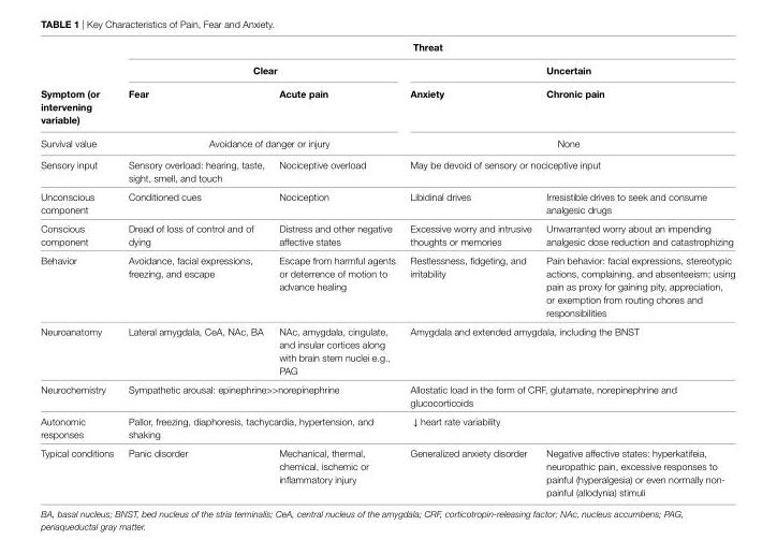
<table><thead><tr><td rowspan="3">Symptom (or intervening variable)</td><td colspan="4">Threat</td></tr><tr><td colspan="2">Clear</td><td colspan="2">Uncertain</td></tr><tr><td>Fear</td><td>Acute pain</td><td>Anxiety</td><td>Chronic pain</td></tr></thead><tbody><tr><td>Survival value</td><td colspan="2">Avoidance of danger or injury</td><td colspan="2">None</td></tr><tr><td>Sensory input</td><td>Sensory overload: hearing, taste, sight, smell, and touch</td><td>Nociceptive overload</td><td colspan="2">May be devoid of sensory or nociceptive input</td></tr><tr><td>Unconscious component</td><td>Conditioned cues</td><td>Nociception</td><td>Libidinal drives</td><td>Irresistible drives to seek and consume analgesic drugs</td></tr><tr><td>Conscious component</td><td>Dread of loss of control and of dying</td><td>Distress and other negative affective states</td><td>Excessive worry and intrusive thoughts or memories</td><td>Unwarranted worry about an impending analgesic dose reduction and catastrophizing</td></tr><tr><td>Behavior</td><td>Avoidance, facial expressions, freezing, and escape</td><td>Escape from harmful agents or deterrence of motion to advance healing</td><td>Restlessness, fidgeting, and irritability</td><td>Pain behavior: facial expressions, stereotypic actions, complaining, and absenteeism; using pain as proxy for gaining pity, appreciation, or exemption from routing chores and responsibilities</td></tr><tr><td>Neuroanatomy</td><td>Lateral amygdala, CeA, NAc, BA</td><td>NAc, amygdala, cingulate, and insular cortices along with brain stem nuclei e.g., PAG</td><td colspan="2">Amygdala and extended amygdala, including the BNST</td></tr><tr><td>Neurochemistry</td><td colspan="2">Sympathetic arousal: epinephrine&gt;&gt;norepinephrine</td><td colspan="2">Allostatic load in the form of CRF, glutamate, norepinephrine and glucocorticoids</td></tr><tr><td>Autonomic responses</td><td colspan="2">Pallor, freezing, diaphoresis, tachycardia, hypertension, and shaking</td><td colspan="2">↓ heart rate variability</td></tr><tr><td>Typical conditions</td><td>Panic disorder</td><td>Mechanical, thermal, chemical, ischemic or inflammatory injury</td><td>Generalized anxiety disorder</td><td>Negative affective states: hyperkatifeia, neuropathic pain, excessive responses to painful (hyperalgesia) or even normally non- painful (allodynia) stimuli</td></tr></tbody></table>